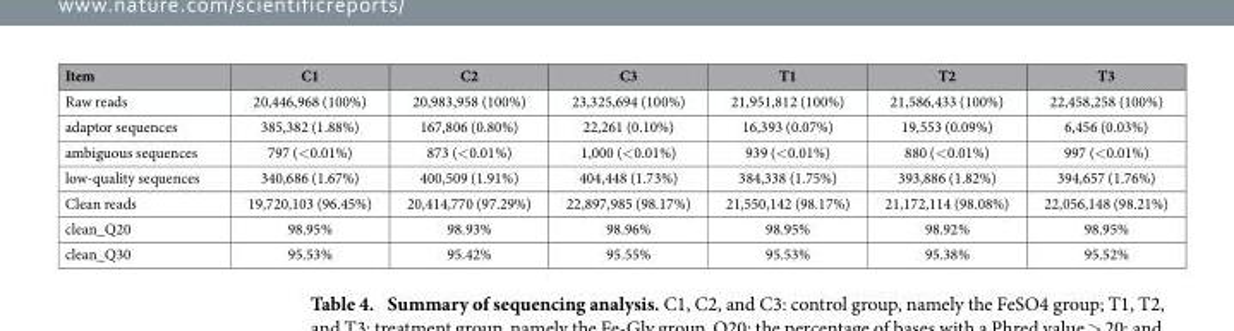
<table><thead><tr><td>Item</td><td>C1</td><td>C2</td><td>C3</td><td>T1</td><td>T2</td><td>T3</td></tr></thead><tbody><tr><td>Raw reads</td><td>20,446,968 (100%)</td><td>20,983,958 (100%)</td><td>23,325,694 (100%)</td><td>21,951,812 (100%)</td><td>21,586,433 (100%)</td><td>22,458,258 (100%)</td></tr><tr><td>adaptor sequences</td><td>385,382 (1.88%)</td><td>167,806 (0.80%)</td><td>22,261 (0.10%)</td><td>16,393 (0.07%)</td><td>19,553 (0.09%)</td><td>6,456 (0.03%)</td></tr><tr><td>ambiguous sequences</td><td>797 (&lt; 0.01%)</td><td>873 (&lt; 0.01%)</td><td>1,000 (&lt; 0.01%)</td><td>939 (&lt; 0.01%)</td><td>880 (&lt; 0.01%)</td><td>997 (&lt; 0.01%)</td></tr><tr><td>low-quality sequences</td><td>340,686 (1.67%)</td><td>400,509 (1.91%)</td><td>404,448 (1.73%)</td><td>384,338 (1.75%)</td><td>393,886 (1.82%)</td><td>394,657 (1.76%)</td></tr><tr><td>Clean reads</td><td>19,720,103 (96.45%)</td><td>20,414,770 (97.29%)</td><td>22,897,985 (98.17%)</td><td>21,550,142 (98.17%)</td><td>21,172,114 (98.08%)</td><td>22,056,148 (98.21%)</td></tr><tr><td>clean_Q20</td><td>98.95%</td><td>98.93%</td><td>98.96%</td><td>98.95%</td><td>98.92%</td><td>98.95%</td></tr><tr><td>clean_Q30</td><td>95.53%</td><td>95.42%</td><td>95.55%</td><td>95.53%</td><td>95.38%</td><td>95.52%</td></tr></tbody></table>